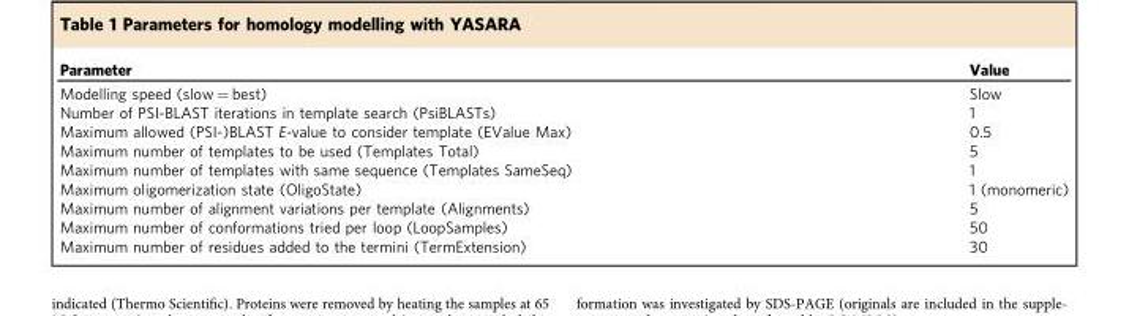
<table><thead><tr><td>Parameter</td><td>Value</td></tr></thead><tbody><tr><td>Modelling speed (slow = best)</td><td>Slow</td></tr><tr><td>Number of PSI-BLAST iterations in template search (PsiBLASTs)</td><td>1</td></tr><tr><td>Maximum allowed (PSI-)BLAST E-value to consider template (EValue Max)</td><td>0.5</td></tr><tr><td>Maximum number of templates to be used (Templates Total)</td><td>5</td></tr><tr><td>Maximum number of templates with same sequence (Templates SameSeq)</td><td>1</td></tr><tr><td>Maximum oligomerization state (OligoState)</td><td>1 (monomeric)</td></tr><tr><td>Maximum number of alignment variations per template (Alignments)</td><td>5</td></tr><tr><td>Maximum number of conformations tried per loop (LoopSamples)</td><td>50</td></tr><tr><td>Maximum number of residues added to the termini (TermExtension)</td><td>30</td></tr></tbody></table>